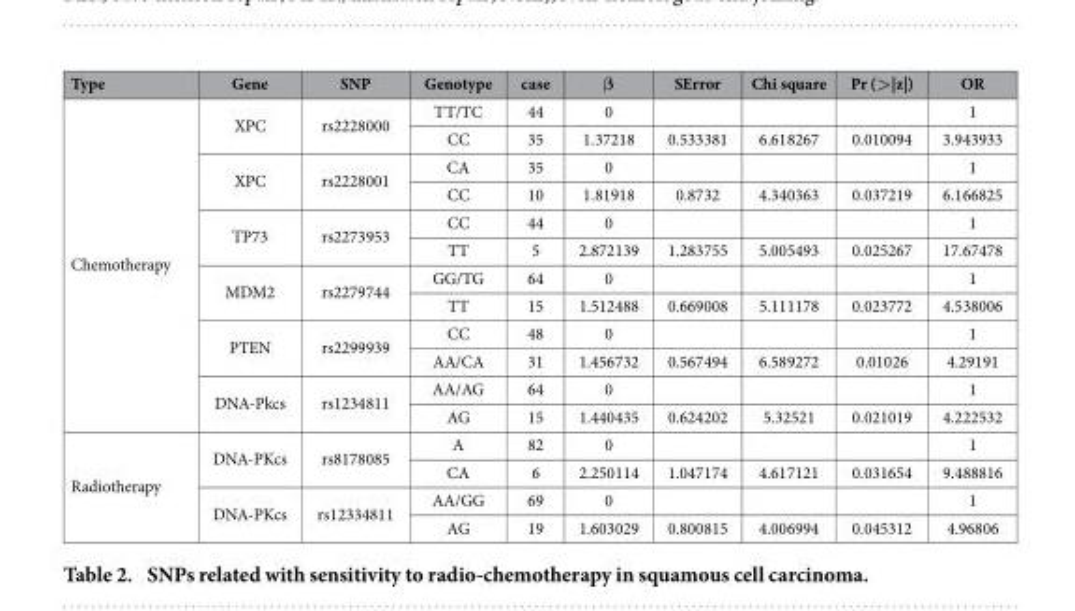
<table><thead><tr><td>Type</td><td>Gene</td><td>SNP</td><td>Genotype</td><td>case</td><td>β</td><td>SError</td><td>Chi square</td><td>Pr (&gt;|z|)</td><td>OR</td></tr></thead><tbody><tr><td rowspan="12">Chemotherapy</td><td rowspan="2">XPC</td><td rowspan="2">rs2228000</td><td>TT/TC</td><td>44</td><td>0</td><td></td><td></td><td></td><td>1</td></tr><tr><td>CC</td><td>35</td><td>1.37218</td><td>0.533381</td><td>6.618267</td><td>0.010094</td><td>3.943933</td></tr><tr><td rowspan="2">XPC</td><td rowspan="2">rs2228001</td><td>CA</td><td>35</td><td>0</td><td></td><td></td><td></td><td>1</td></tr><tr><td>CC</td><td>10</td><td>1.81918</td><td>0.8732</td><td>4.340363</td><td>0.037219</td><td>6.166825</td></tr><tr><td rowspan="2">TP73</td><td rowspan="2">rs2273953</td><td>CC</td><td>44</td><td>0</td><td></td><td></td><td></td><td>1</td></tr><tr><td>TT</td><td>5</td><td>2.872139</td><td>1.283755</td><td>5.005493</td><td>0.025267</td><td>17.67478</td></tr><tr><td rowspan="2">MDM2</td><td rowspan="2">rs2279744</td><td>GG/TG</td><td>64</td><td>0</td><td></td><td></td><td></td><td>1</td></tr><tr><td>TT</td><td>15</td><td>1.512488</td><td>0.669008</td><td>5.111178</td><td>0.023772</td><td>4.538006</td></tr><tr><td rowspan="2">PTEN</td><td rowspan="2">rs2299939</td><td>CC</td><td>48</td><td>0</td><td></td><td></td><td></td><td>1</td></tr><tr><td>AA/CA</td><td>31</td><td>1.456732</td><td>0.567494</td><td>6.589272</td><td>0.01026</td><td>4.29191</td></tr><tr><td rowspan="2">DNA-Pkcs</td><td rowspan="2">rs1234811</td><td>AA/AG</td><td>64</td><td>0</td><td></td><td></td><td></td><td>1</td></tr><tr><td>AG</td><td>15</td><td>1.440435</td><td>0.624202</td><td>5.32521</td><td>0.021019</td><td>4.222532</td></tr><tr><td rowspan="4">Radiotherapy</td><td rowspan="2">DNA-PKcs</td><td rowspan="2">rs8178085</td><td>A</td><td>82</td><td>0</td><td></td><td></td><td></td><td>1</td></tr><tr><td>CA</td><td>6</td><td>2.250114</td><td>1.047174</td><td>4.617121</td><td>0.031654</td><td>9.488816</td></tr><tr><td rowspan="2">DNA-PKcs</td><td rowspan="2">rs12334811</td><td>AA/GG</td><td>69</td><td>0</td><td></td><td></td><td></td><td>1</td></tr><tr><td>AG</td><td>19</td><td>1.603029</td><td>0.800815</td><td>4.006994</td><td>0.045312</td><td>4.96806</td></tr></tbody></table>